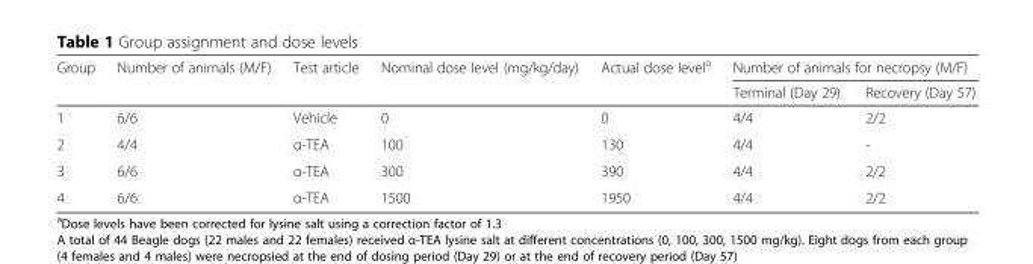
<table><thead><tr><td rowspan="2">Group</td><td rowspan="2">Number of animals (M/F)</td><td rowspan="2">Test article</td><td rowspan="2">Nominal dose level (mg/kg/day)</td><td rowspan="2">Actual dose level<sup>a</sup></td><td colspan="2">Number of animals for necropsy (M/F)</td></tr><tr><td>Terminal (Day 29)</td><td>Recovery (Day 57)</td></tr></thead><tbody><tr><td>1</td><td>6/6</td><td>Vehicle</td><td>0</td><td>0</td><td>4/4</td><td>2/2</td></tr><tr><td>2</td><td>4/4</td><td>α-TEA</td><td>100</td><td>130</td><td>4/4</td><td>-</td></tr><tr><td>3</td><td>6/6</td><td>α-TEA</td><td>300</td><td>390</td><td>4/4</td><td>2/2</td></tr><tr><td>4</td><td>6/6</td><td>α-TEA</td><td>1500</td><td>1950</td><td>4/4</td><td>2/2</td></tr></tbody></table>